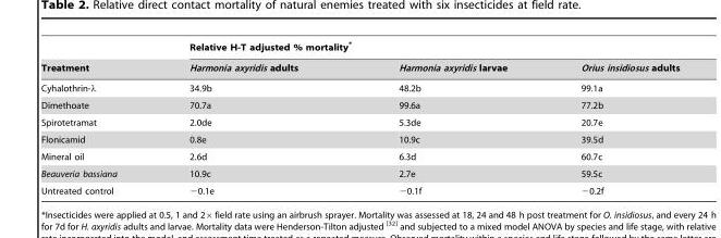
<table><thead><tr><td rowspan="2">Treatment</td><td colspan="3">Relative H-T adjusted % mortality*</td></tr><tr><td>Harmonia axyridis adults</td><td>Harmonia axyridis larvae</td><td>Orius insidiosus adults</td></tr></thead><tbody><tr><td>Cyhalothrin-λ</td><td>34.9b</td><td>48.2b</td><td>99.1a</td></tr><tr><td>Dimethoate</td><td>70.7a</td><td>99.6a</td><td>77.2b</td></tr><tr><td>Spirotetramat</td><td>2.0de</td><td>5.3de</td><td>20.7e</td></tr><tr><td>Flonicamid</td><td>0.8e</td><td>10.9c</td><td>39.5d</td></tr><tr><td>Mineral oil</td><td>2.6d</td><td>6.3d</td><td>60.7c</td></tr><tr><td>Beauveria bassiana</td><td>10.9c</td><td>2.7e</td><td>59.5c</td></tr><tr><td>Untreated control</td><td>−0.1e</td><td>−0.1f</td><td>−0.2f</td></tr></tbody></table>